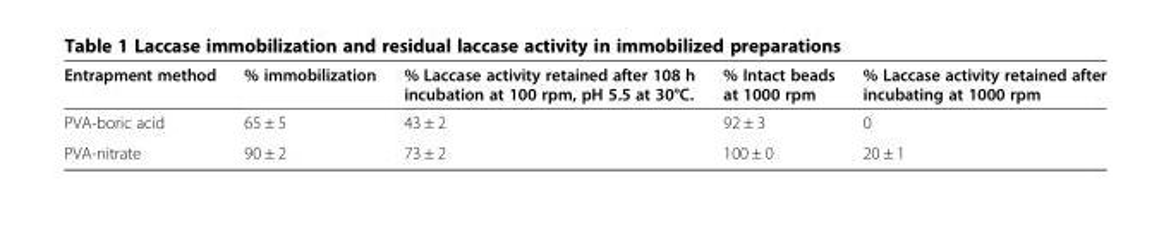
<table><thead><tr><td>Entrapment method</td><td>% immobilization</td><td>% Laccase activity retained after 108 h incubation at 100 rpm, pH 5.5 at 30°C.</td><td>% Intact beads at 1000 rpm</td><td>% Laccase activity retained after incubating at 1000 rpm</td></tr></thead><tbody><tr><td>PVA-boric acid</td><td>65 ± 5</td><td>43 ± 2</td><td>92 ± 3</td><td>0</td></tr><tr><td>PVA-nitrate</td><td>90 ± 2</td><td>73 ± 2</td><td>100 ± 0</td><td>20 ± 1</td></tr></tbody></table>